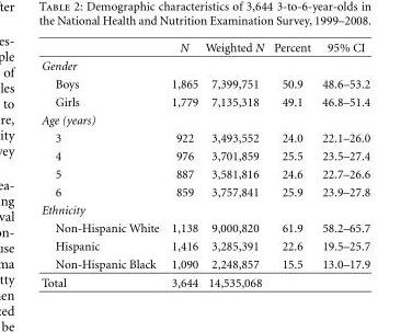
<table><thead><tr><td></td><td>N</td><td>Weighted N</td><td>Percent</td><td>95% CI</td></tr></thead><tbody><tr><td colspan="5">Gender</td></tr><tr><td>Boys</td><td>1,865</td><td>7,399,751</td><td>50.9</td><td>48.6–53.2</td></tr><tr><td>Girls</td><td>1,779</td><td>7,135,318</td><td>49.1</td><td>46.8–51.4</td></tr><tr><td colspan="5">Age (years)</td></tr><tr><td>3</td><td>922</td><td>3,493,552</td><td>24.0</td><td>22.1–26.0</td></tr><tr><td>4</td><td>976</td><td>3,701,859</td><td>25.5</td><td>23.5–27.4</td></tr><tr><td>5</td><td>887</td><td>3,581,816</td><td>24.6</td><td>22.7–26.6</td></tr><tr><td>6</td><td>859</td><td>3,757,841</td><td>25.9</td><td>23.9–27.8</td></tr><tr><td colspan="5">Ethnicity</td></tr><tr><td>Non-Hispanic White</td><td>1,138</td><td>9,000,820</td><td>61.9</td><td>58.2–65.7</td></tr><tr><td>Hispanic</td><td>1,416</td><td>3,285,391</td><td>22.6</td><td>19.5–25.7</td></tr><tr><td>Non-Hispanic Black</td><td>1,090</td><td>2,248,857</td><td>15.5</td><td>13.0–17.9</td></tr><tr><td>Total</td><td>3,644</td><td>14,535,068</td><td></td><td></td></tr></tbody></table>